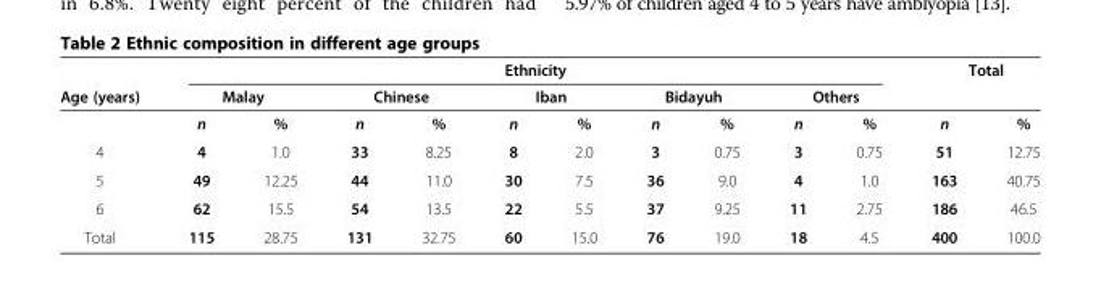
<table><thead><tr><td rowspan="3">Age (years)</td><td colspan="10">Ethnicity</td><td rowspan="2" colspan="2">Total</td></tr><tr><td colspan="2">Malay</td><td colspan="2">Chinese</td><td colspan="2">Iban</td><td colspan="2">Bidayuh</td><td colspan="2">Others</td></tr><tr><td>n</td><td>%</td><td>n</td><td>%</td><td>n</td><td>%</td><td>n</td><td>%</td><td>n</td><td>%</td><td>n</td><td>%</td></tr></thead><tbody><tr><td>4</td><td>4</td><td>1.0</td><td>33</td><td>8.25</td><td>8</td><td>2.0</td><td>3</td><td>0.75</td><td>3</td><td>0.75</td><td>51</td><td>12.75</td></tr><tr><td>5</td><td>49</td><td>12.25</td><td>44</td><td>11.0</td><td>30</td><td>7.5</td><td>36</td><td>9.0</td><td>4</td><td>1.0</td><td>163</td><td>40.75</td></tr><tr><td>6</td><td>62</td><td>15.5</td><td>54</td><td>13.5</td><td>22</td><td>5.5</td><td>37</td><td>9.25</td><td>11</td><td>2.75</td><td>186</td><td>46.5</td></tr><tr><td>Total</td><td>115</td><td>28.75</td><td>131</td><td>32.75</td><td>60</td><td>15.0</td><td>76</td><td>19.0</td><td>18</td><td>4.5</td><td>400</td><td>100.0</td></tr></tbody></table>